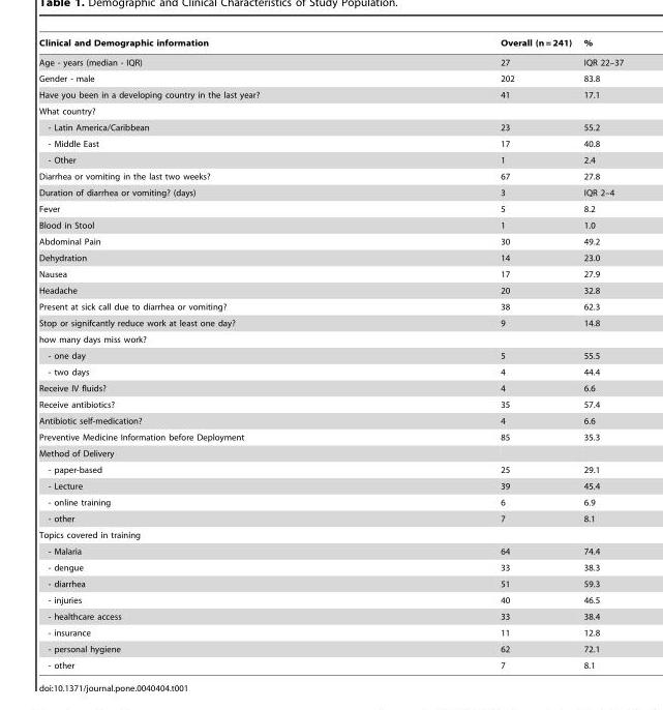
<table><thead><tr><td>Clinical and Demographic information</td><td>Overall (n = 241)</td><td>%</td></tr></thead><tbody><tr><td>Age - years (median - IQR)</td><td>27</td><td>IQR 22–37</td></tr><tr><td>Gender - male</td><td>202</td><td>83.8</td></tr><tr><td>Have you been in a developing country in the last year?</td><td>41</td><td>17.1</td></tr><tr><td colspan="3">What country?</td></tr><tr><td>- Latin America/Caribbean</td><td>23</td><td>55.2</td></tr><tr><td>- Middle East</td><td>17</td><td>40.8</td></tr><tr><td>- Other</td><td>1</td><td>2.4</td></tr><tr><td>Diarrhea or vomiting in the last two weeks?</td><td>67</td><td>27.8</td></tr><tr><td>Duration of diarrhea or vomiting? (days)</td><td>3</td><td>IQR 2–4</td></tr><tr><td>Fever</td><td>5</td><td>8.2</td></tr><tr><td>Blood in Stool</td><td>1</td><td>1.0</td></tr><tr><td>Abdominal Pain</td><td>30</td><td>49.2</td></tr><tr><td>Dehydration</td><td>14</td><td>23.0</td></tr><tr><td>Nausea</td><td>17</td><td>27.9</td></tr><tr><td>Headache</td><td>20</td><td>32.8</td></tr><tr><td>Present at sick call due to diarrhea or vomiting?</td><td>38</td><td>62.3</td></tr><tr><td>Stop or signifcantly reduce work at least one day?</td><td>9</td><td>14.8</td></tr><tr><td colspan="3">how many days miss work?</td></tr><tr><td>- one day</td><td>5</td><td>55.5</td></tr><tr><td>- two days</td><td>4</td><td>44.4</td></tr><tr><td>Receive IV fluids?</td><td>4</td><td>6.6</td></tr><tr><td>Receive antibiotics?</td><td>35</td><td>57.4</td></tr><tr><td>Antibiotic self-medication?</td><td>4</td><td>6.6</td></tr><tr><td>Preventive Medicine Information before Deployment</td><td>85</td><td>35.3</td></tr><tr><td colspan="3">Method of Delivery</td></tr><tr><td>- paper-based</td><td>25</td><td>29.1</td></tr><tr><td>- Lecture</td><td>39</td><td>45.4</td></tr><tr><td>- online training</td><td>6</td><td>6.9</td></tr><tr><td>- other</td><td>7</td><td>8.1</td></tr><tr><td colspan="3">Topics covered in training</td></tr><tr><td>- Malaria</td><td>64</td><td>74.4</td></tr><tr><td>- dengue</td><td>33</td><td>38.3</td></tr><tr><td>- diarrhea</td><td>51</td><td>59.3</td></tr><tr><td>- injuries</td><td>40</td><td>46.5</td></tr><tr><td>- healthcare access</td><td>33</td><td>38.4</td></tr><tr><td>- insurance</td><td>11</td><td>12.8</td></tr><tr><td>- personal hygiene</td><td>62</td><td>72.1</td></tr><tr><td>- other</td><td>7</td><td>8.1</td></tr></tbody></table>